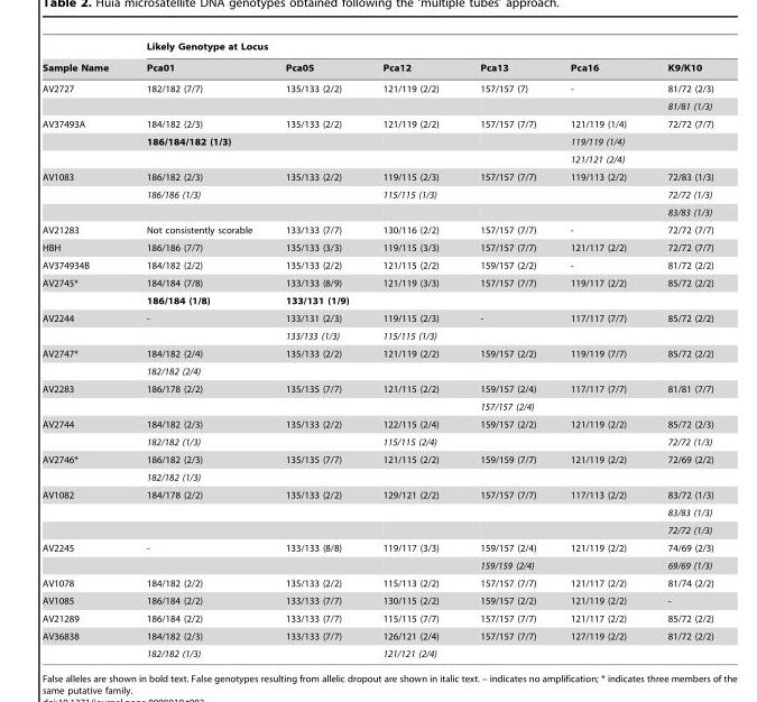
<table><thead><tr><td rowspan="2">Sample Name</td><td colspan="6">Likely Genotype at Locus</td></tr><tr><td>Pca01</td><td>Pca05</td><td>Pca12</td><td>Pca13</td><td>Pca16</td><td>K9/K10</td></tr></thead><tbody><tr><td rowspan="2">AV2727</td><td>182/182 (7/7)</td><td>135/133 (2/2)</td><td>121/119 (2/2)</td><td>157/157 (7)</td><td>-</td><td>81/72 (2/3)</td></tr><tr><td></td><td></td><td></td><td></td><td></td><td>81/81 (1/3)</td></tr><tr><td rowspan="3">AV37493A</td><td>184/182 (2/3)</td><td>135/133 (2/2)</td><td>121/119 (2/2)</td><td>157/157 (7/7)</td><td>121/119 (1/4)</td><td>72/72 (7/7)</td></tr><tr><td>186/184/182 (1/3)</td><td></td><td></td><td></td><td>119/119 (1/4)</td><td></td></tr><tr><td></td><td></td><td></td><td></td><td>121/121 (2/4)</td><td></td></tr><tr><td rowspan="3">AV1083</td><td>186/182 (2/3)</td><td>135/133 (2/2)</td><td>119/115 (2/3)</td><td>157/157 (7/7)</td><td>119/113 (2/2)</td><td>72/83 (1/3)</td></tr><tr><td>186/186 (1/3)</td><td></td><td>115/115 (1/3)</td><td></td><td></td><td>72/72 (1/3)</td></tr><tr><td></td><td></td><td></td><td></td><td></td><td>83/83 (1/3)</td></tr><tr><td>AV21283</td><td>Not consistently scorable</td><td>133/133 (7/7)</td><td>130/116 (2/2)</td><td>157/157 (7/7)</td><td>-</td><td>72/72 (7/7)</td></tr><tr><td>HBH</td><td>186/186 (7/7)</td><td>135/133 (3/3)</td><td>119/115 (3/3)</td><td>157/157 (7/7)</td><td>121/117 (2/2)</td><td>72/72 (7/7)</td></tr><tr><td>AV374934B</td><td>184/182 (2/2)</td><td>135/133 (2/2)</td><td>121/115 (2/2)</td><td>159/157 (2/2)</td><td>-</td><td>81/72 (2/2)</td></tr><tr><td rowspan="2">AV2745*</td><td>184/184 (7/8)</td><td>133/133 (8/9)</td><td>121/119 (3/3)</td><td>157/157 (7/7)</td><td>119/117 (2/2)</td><td>85/72 (2/2)</td></tr><tr><td>186/184 (1/8)</td><td>133/131 (1/9)</td><td></td><td></td><td></td><td></td></tr><tr><td rowspan="2">AV2244</td><td>-</td><td>133/131 (2/3)</td><td>119/115 (2/3)</td><td>-</td><td>117/117 (7/7)</td><td>85/72 (2/2)</td></tr><tr><td></td><td>133/133 (1/3)</td><td>115/115 (1/3)</td><td></td><td></td><td></td></tr><tr><td rowspan="2">AV2747*</td><td>184/182 (2/4)</td><td>135/133 (2/2)</td><td>121/119 (2/2)</td><td>159/157 (2/2)</td><td>119/119 (7/7)</td><td>85/72 (2/2)</td></tr><tr><td>182/182 (2/4)</td><td></td><td></td><td></td><td></td><td></td></tr><tr><td rowspan="2">AV2283</td><td>186/178 (2/2)</td><td>135/135 (7/7)</td><td>121/115 (2/2)</td><td>159/157 (2/4)</td><td>117/117 (7/7)</td><td>81/81 (7/7)</td></tr><tr><td></td><td></td><td></td><td>157/157 (2/4)</td><td></td><td></td></tr><tr><td rowspan="2">AV2744</td><td>184/182 (2/3)</td><td>135/133 (2/2)</td><td>122/115 (2/4)</td><td>159/157 (2/2)</td><td>121/119 (2/2)</td><td>85/72 (2/3)</td></tr><tr><td>182/182 (1/3)</td><td></td><td>115/115 (2/4)</td><td></td><td></td><td>72/72 (1/3)</td></tr><tr><td rowspan="2">AV2746*</td><td>186/182 (2/3)</td><td>135/135 (7/7)</td><td>121/115 (2/2)</td><td>159/159 (7/7)</td><td>121/119 (2/2)</td><td>72/69 (2/2)</td></tr><tr><td>182/182 (1/3)</td><td></td><td></td><td></td><td></td><td></td></tr><tr><td rowspan="3">AV1082</td><td>184/178 (2/2)</td><td>135/133 (2/2)</td><td>129/121 (2/2)</td><td>157/157 (7/7)</td><td>117/113 (2/2)</td><td>83/72 (1/3)</td></tr><tr><td></td><td></td><td></td><td></td><td></td><td>83/83 (1/3)</td></tr><tr><td></td><td></td><td></td><td></td><td></td><td>72/72 (1/3)</td></tr><tr><td rowspan="2">AV2245</td><td>-</td><td>133/133 (8/8)</td><td>119/117 (3/3)</td><td>159/157 (2/4)</td><td>121/119 (2/2)</td><td>74/69 (2/3)</td></tr><tr><td></td><td></td><td></td><td>159/159 (2/4)</td><td></td><td>69/69 (1/3)</td></tr><tr><td>AV1078</td><td>184/182 (2/2)</td><td>135/133 (2/2)</td><td>115/113 (2/2)</td><td>157/157 (7/7)</td><td>121/117 (2/2)</td><td>81/74 (2/2)</td></tr><tr><td>AV1085</td><td>186/184 (2/2)</td><td>133/133 (7/7)</td><td>130/115 (2/2)</td><td>159/157 (2/2)</td><td>121/119 (2/2)</td><td>-</td></tr><tr><td>AV21289</td><td>186/184 (2/2)</td><td>133/133 (7/7)</td><td>115/115 (7/7)</td><td>157/157 (7/7)</td><td>121/117 (2/2)</td><td>85/72 (2/2)</td></tr><tr><td rowspan="2">AV36838</td><td>184/182 (2/3)</td><td>133/133 (7/7)</td><td>126/121 (2/4)</td><td>157/157 (7/7)</td><td>127/119 (2/2)</td><td>81/72 (2/2)</td></tr><tr><td>182/182 (1/3)</td><td></td><td>121/121 (2/4)</td><td></td><td></td><td></td></tr></tbody></table>